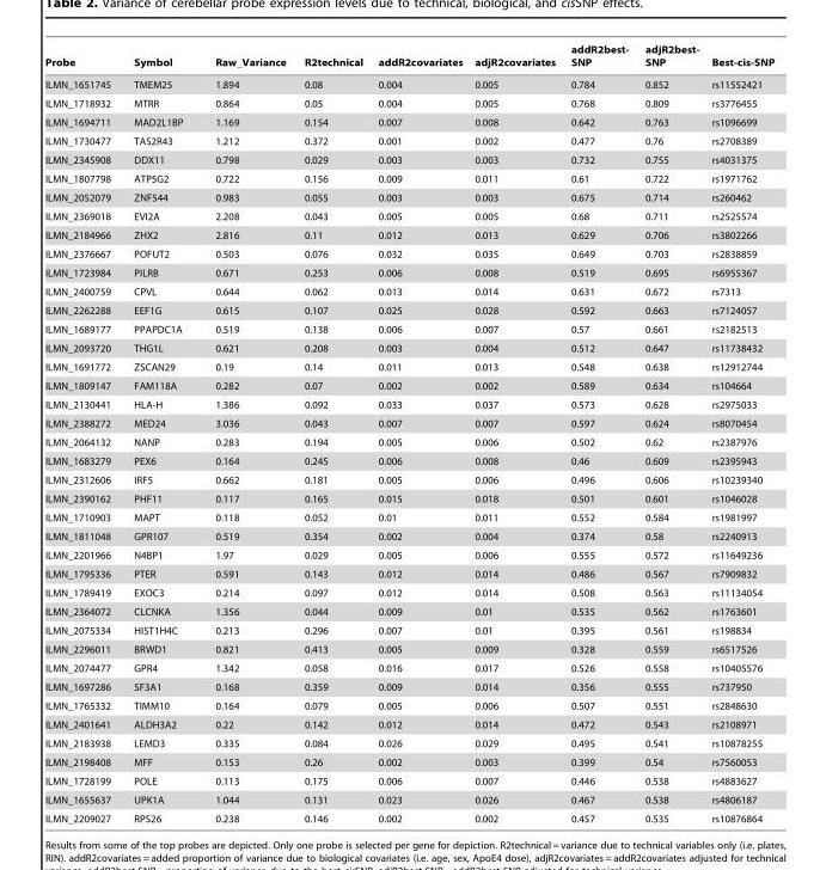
<table><thead><tr><td>Probe</td><td>Symbol</td><td>Raw_Variance</td><td>R2technical</td><td>addR2covariates</td><td>adjR2covariates</td><td>addR2best- SNP</td><td>adjR2best- SNP</td><td>Best-cis-SNP</td></tr></thead><tbody><tr><td>ILMN_1651745</td><td>TMEM25</td><td>1.894</td><td>0.08</td><td>0.004</td><td>0.005</td><td>0.784</td><td>0.852</td><td>rs11552421</td></tr><tr><td>ILMN_1718932</td><td>MTRR</td><td>0.864</td><td>0.05</td><td>0.004</td><td>0.005</td><td>0.768</td><td>0.809</td><td>rs3776455</td></tr><tr><td>ILMN_1694711</td><td>MAD2L1BP</td><td>1.169</td><td>0.154</td><td>0.007</td><td>0.008</td><td>0.642</td><td>0.763</td><td>rs1096699</td></tr><tr><td>ILMN_1730477</td><td>TAS2R43</td><td>1.212</td><td>0.372</td><td>0.001</td><td>0.002</td><td>0.477</td><td>0.76</td><td>rs2708389</td></tr><tr><td>ILMN_2345908</td><td>DDX11</td><td>0.798</td><td>0.029</td><td>0.003</td><td>0.003</td><td>0.732</td><td>0.755</td><td>rs4031375</td></tr><tr><td>ILMN_1807798</td><td>ATP5G2</td><td>0.722</td><td>0.156</td><td>0.009</td><td>0.011</td><td>0.61</td><td>0.722</td><td>rs1971762</td></tr><tr><td>ILMN_2052079</td><td>ZNF544</td><td>0.983</td><td>0.055</td><td>0.003</td><td>0.003</td><td>0.675</td><td>0.714</td><td>rs260462</td></tr><tr><td>ILMN_2369018</td><td>EVI2A</td><td>2.208</td><td>0.043</td><td>0.005</td><td>0.005</td><td>0.68</td><td>0.711</td><td>rs2525574</td></tr><tr><td>ILMN_2184966</td><td>ZHX2</td><td>2.816</td><td>0.11</td><td>0.012</td><td>0.013</td><td>0.629</td><td>0.706</td><td>rs3802266</td></tr><tr><td>ILMN_2376667</td><td>POFUT2</td><td>0.503</td><td>0.076</td><td>0.032</td><td>0.035</td><td>0.649</td><td>0.703</td><td>rs2838859</td></tr><tr><td>ILMN_1723984</td><td>PILRB</td><td>0.671</td><td>0.253</td><td>0.006</td><td>0.008</td><td>0.519</td><td>0.695</td><td>rs6955367</td></tr><tr><td>ILMN_2400759</td><td>CPVL</td><td>0.644</td><td>0.062</td><td>0.013</td><td>0.014</td><td>0.631</td><td>0.672</td><td>rs7313</td></tr><tr><td>ILMN_2262288</td><td>EEF1G</td><td>0.615</td><td>0.107</td><td>0.025</td><td>0.028</td><td>0.592</td><td>0.663</td><td>rs7124057</td></tr><tr><td>ILMN_1689177</td><td>PPAPDC1A</td><td>0.519</td><td>0.138</td><td>0.006</td><td>0.007</td><td>0.57</td><td>0.661</td><td>rs2182513</td></tr><tr><td>ILMN_2093720</td><td>THG1L</td><td>0.621</td><td>0.208</td><td>0.003</td><td>0.004</td><td>0.512</td><td>0.647</td><td>rs11738432</td></tr><tr><td>ILMN_1691772</td><td>ZSCAN29</td><td>0.19</td><td>0.14</td><td>0.011</td><td>0.013</td><td>0.548</td><td>0.638</td><td>rs12912744</td></tr><tr><td>ILMN_1809147</td><td>FAM118A</td><td>0.282</td><td>0.07</td><td>0.002</td><td>0.002</td><td>0.589</td><td>0.634</td><td>rs104664</td></tr><tr><td>ILMN_2130441</td><td>HLA-H</td><td>1.386</td><td>0.092</td><td>0.033</td><td>0.037</td><td>0.573</td><td>0.628</td><td>rs2975033</td></tr><tr><td>ILMN_2388272</td><td>MED24</td><td>3.036</td><td>0.043</td><td>0.007</td><td>0.007</td><td>0.597</td><td>0.624</td><td>rs8070454</td></tr><tr><td>ILMN_2064132</td><td>NANP</td><td>0.283</td><td>0.194</td><td>0.005</td><td>0.006</td><td>0.502</td><td>0.62</td><td>rs2387976</td></tr><tr><td>ILMN_1683279</td><td>PEX6</td><td>0.164</td><td>0.245</td><td>0.006</td><td>0.008</td><td>0.46</td><td>0.609</td><td>rs2395943</td></tr><tr><td>ILMN_2312606</td><td>IRF5</td><td>0.662</td><td>0.181</td><td>0.005</td><td>0.006</td><td>0.496</td><td>0.606</td><td>rs10239340</td></tr><tr><td>ILMN_2390162</td><td>PHF11</td><td>0.117</td><td>0.165</td><td>0.015</td><td>0.018</td><td>0.501</td><td>0.601</td><td>rs1046028</td></tr><tr><td>ILMN_1710903</td><td>MAPT</td><td>0.118</td><td>0.052</td><td>0.01</td><td>0.011</td><td>0.552</td><td>0.584</td><td>rs1981997</td></tr><tr><td>ILMN_1811048</td><td>GPR107</td><td>0.519</td><td>0.354</td><td>0.002</td><td>0.004</td><td>0.374</td><td>0.58</td><td>rs2240913</td></tr><tr><td>ILMN_2201966</td><td>N4BP1</td><td>1.97</td><td>0.029</td><td>0.005</td><td>0.006</td><td>0.555</td><td>0.572</td><td>rs11649236</td></tr><tr><td>ILMN_1795336</td><td>PTER</td><td>0.591</td><td>0.143</td><td>0.012</td><td>0.014</td><td>0.486</td><td>0.567</td><td>rs7909832</td></tr><tr><td>ILMN_1789419</td><td>EXOC3</td><td>0.214</td><td>0.097</td><td>0.012</td><td>0.014</td><td>0.508</td><td>0.563</td><td>rs11134054</td></tr><tr><td>ILMN_2364072</td><td>CLCNKA</td><td>1.356</td><td>0.044</td><td>0.009</td><td>0.01</td><td>0.535</td><td>0.562</td><td>rs1763601</td></tr><tr><td>ILMN_2075334</td><td>HIST1H4C</td><td>0.213</td><td>0.296</td><td>0.007</td><td>0.01</td><td>0.395</td><td>0.561</td><td>rs198834</td></tr><tr><td>ILMN_2296011</td><td>BRWD1</td><td>0.821</td><td>0.413</td><td>0.005</td><td>0.009</td><td>0.328</td><td>0.559</td><td>rs6517526</td></tr><tr><td>ILMN_2074477</td><td>GPR4</td><td>1.342</td><td>0.058</td><td>0.016</td><td>0.017</td><td>0.526</td><td>0.558</td><td>rs10405576</td></tr><tr><td>ILMN_1697286</td><td>SF3A1</td><td>0.168</td><td>0.359</td><td>0.009</td><td>0.014</td><td>0.356</td><td>0.555</td><td>rs737950</td></tr><tr><td>ILMN_1765332</td><td>TIMM10</td><td>0.164</td><td>0.079</td><td>0.005</td><td>0.006</td><td>0.507</td><td>0.551</td><td>rs2848630</td></tr><tr><td>ILMN_2401641</td><td>ALDH3A2</td><td>0.22</td><td>0.142</td><td>0.012</td><td>0.014</td><td>0.472</td><td>0.543</td><td>rs2108971</td></tr><tr><td>ILMN_2183938</td><td>LEMD3</td><td>0.335</td><td>0.084</td><td>0.026</td><td>0.029</td><td>0.495</td><td>0.541</td><td>rs10878255</td></tr><tr><td>ILMN_2198408</td><td>MFF</td><td>0.153</td><td>0.26</td><td>0.002</td><td>0.003</td><td>0.399</td><td>0.54</td><td>rs7560053</td></tr><tr><td>ILMN_1728199</td><td>POLE</td><td>0.113</td><td>0.175</td><td>0.006</td><td>0.007</td><td>0.446</td><td>0.538</td><td>rs4883627</td></tr><tr><td>ILMN_1655637</td><td>UPK1A</td><td>1.044</td><td>0.131</td><td>0.023</td><td>0.026</td><td>0.467</td><td>0.538</td><td>rs4806187</td></tr><tr><td>ILMN_2209027</td><td>RPS26</td><td>0.238</td><td>0.146</td><td>0.002</td><td>0.002</td><td>0.457</td><td>0.535</td><td>rs10876864</td></tr></tbody></table>